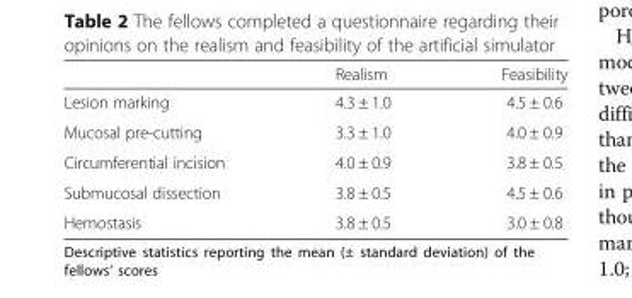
<table><thead><tr><td></td><td>Realism</td><td>Feasibility</td></tr></thead><tbody><tr><td>Lesion marking</td><td>4.3 ± 1.0</td><td>4.5 ± 0.6</td></tr><tr><td>Mucosal pre-cutting</td><td>3.3 ± 1.0</td><td>4.0 ± 0.9</td></tr><tr><td>Circumferential incision</td><td>4.0 ± 0.9</td><td>3.8 ± 0.5</td></tr><tr><td>Submucosal dissection</td><td>3.8 ± 0.5</td><td>4.5 ± 0.6</td></tr><tr><td>Hemostasis</td><td>3.8 ± 0.5</td><td>3.0 ± 0.8</td></tr></tbody></table>